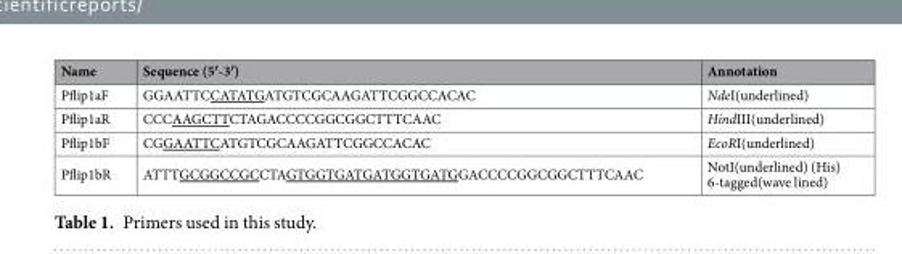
<table><thead><tr><td>Name</td><td>Sequence (5′-3′)</td><td>Annotation</td></tr></thead><tbody><tr><td>Pflip1aF</td><td>GGAATTCCATATGATGTCGCAAGATTCGGCCACAC</td><td>NdeI(underlined)</td></tr><tr><td>Pflip1aR</td><td>CCCAAGCTTCTAGACCCCGGCGGCTTTCAAC</td><td>HindIII(underlined)</td></tr><tr><td>Pflip1bF</td><td>CGGAATTCATGTCGCAAGATTCGGCCACAC</td><td>EcoRI(underlined)</td></tr><tr><td>Pflip1bR</td><td>ATTTGCGGCCGCCTAGTGGTGATGATGGTGATGGACCCCGGCGGCTTTCAAC</td><td>NotI(underlined) (His) 6-tagged(wave lined)</td></tr></tbody></table>